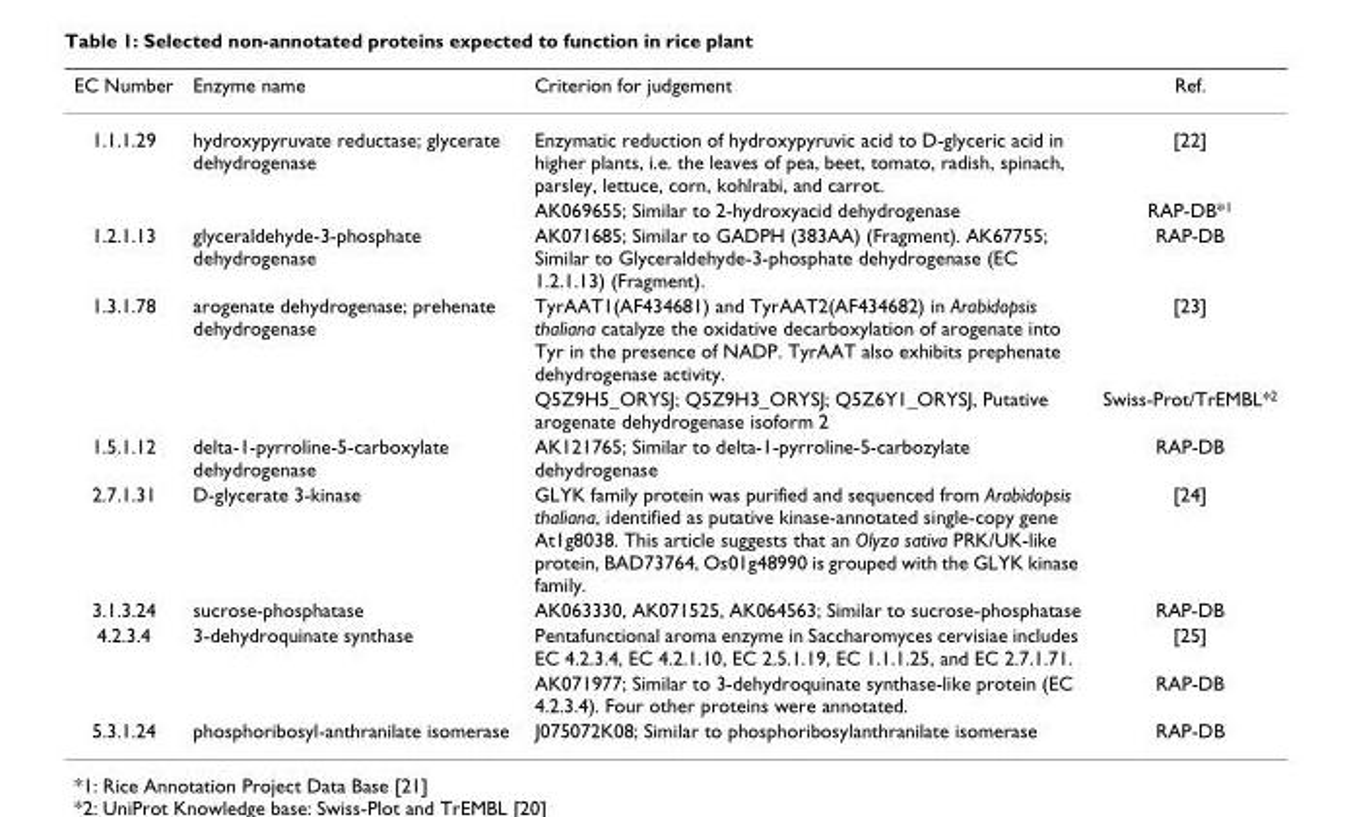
<table><thead><tr><td>EC Number</td><td>Enzyme name</td><td>Criterion for judgement</td><td>Ref.</td></tr></thead><tbody><tr><td rowspan="2">1.1.1.29</td><td>hydroxypyruvate reductase; glycerate dehydrogenase</td><td>Enzymatic reduction of hydroxypyruvic acid to D-glyceric acid in higher plants, i.e. the leaves of pea, beet, tomato, radish, spinach, parsley, lettuce, corn, kohlrabi, and carrot.</td><td>[22]</td></tr><tr><td></td><td>AK069655; Similar to 2-hydroxyacid dehydrogenase</td><td>RAP-DB*<sup>1</sup></td></tr><tr><td>1.2.1.13</td><td>glyceraldehyde-3-phosphate dehydrogenase</td><td>AK071685; Similar to GADPH (383AA) (Fragment). AK67755; Similar to Glyceraldehyde-3-phosphate dehydrogenase (EC 1.2.1.13) (Fragment).</td><td>RAP-DB</td></tr><tr><td rowspan="2">1.3.1.78</td><td>arogenate dehydrogenase; prehenate dehydrogenase</td><td>TyrAAT1(AF434681) and TyrAAT2(AF434682) in Arabidopsis thaliana catalyze the oxidative decarboxylation of arogenate into Tyr in the presence of NADP. TyrAAT also exhibits prephenate dehydrogenase activity.</td><td>[23]</td></tr><tr><td></td><td>Q5Z9H5_ORYSJ; Q5Z9H3_ORYSJ; Q5Z6Y1_ORYSJ, Putative arogenate dehydrogenase isoform 2</td><td>Swiss-Prot/TrEMBL*<sup>2</sup></td></tr><tr><td>1.5.1.12</td><td>delta-1-pyrroline-5-carboxylate dehydrogenase</td><td>AK121765; Similar to delta-1-pyrroline-5-carbozylate dehydrogenase</td><td>RAP-DB</td></tr><tr><td>2.7.1.31</td><td>D-glycerate 3-kinase</td><td>GLYK family protein was purified and sequenced from Arabidopsis thaliana, identified as putative kinase-annotated single-copy gene At1g8038. This article suggests that an Olyza sativa PRK/UK-like protein, BAD73764, Os01g48990 is grouped with the GLYK kinase family.</td><td>[24]</td></tr><tr><td>3.1.3.24</td><td>sucrose-phosphatase</td><td>AK063330, AK071525, AK064563; Similar to sucrose-phosphatase</td><td>RAP-DB</td></tr><tr><td rowspan="2">4.2.3.4</td><td>3-dehydroquinate synthase</td><td>Pentafunctional aroma enzyme in Saccharomyces cervisiae includes EC 4.2.3.4, EC 4.2.1.10, EC 2.5.1.19, EC 1.1.1.25, and EC 2.7.1.71.</td><td>[25]</td></tr><tr><td></td><td>AK071977; Similar to 3-dehydroquinate synthase-like protein (EC 4.2.3.4). Four other proteins were annotated.</td><td>RAP-DB</td></tr><tr><td>5.3.1.24</td><td>phosphoribosyl-anthranilate isomerase</td><td>J075072K08; Similar to phosphoribosylanthranilate isomerase</td><td>RAP-DB</td></tr></tbody></table>